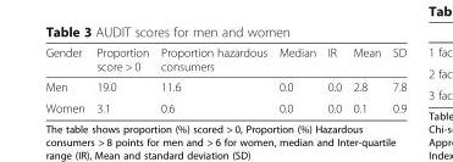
<table><thead><tr><td>Gender</td><td>Proportion score &gt; 0</td><td>Proportion hazardous consumers</td><td>Median</td><td>IR</td><td>Mean</td><td>SD</td></tr></thead><tbody><tr><td>Men</td><td>19.0</td><td>11.6</td><td>0.0</td><td>0.0</td><td>2.8</td><td>7.8</td></tr><tr><td>Women</td><td>3.1</td><td>0.6</td><td>0.0</td><td>0.0</td><td>0.1</td><td>0.9</td></tr></tbody></table>